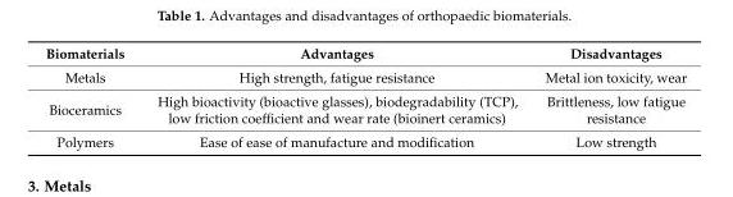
<table><thead><tr><td>Biomaterials</td><td>Advantages</td><td>Disadvantages</td></tr></thead><tbody><tr><td>Metals</td><td>High strength, fatigue resistance</td><td>Metal ion toxicity, wear</td></tr><tr><td>Bioceramics</td><td>High bioactivity (bioactive glasses), biodegradability (TCP), low friction coefficient and wear rate (bioinert ceramics)</td><td>Brittleness, low fatigue resistance</td></tr><tr><td>Polymers</td><td>Ease of ease of manufacture and modification</td><td>Low strength</td></tr></tbody></table>